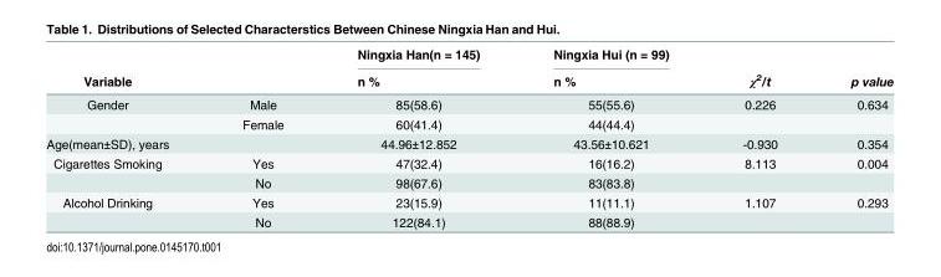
<table><thead><tr><td rowspan="2">Variable</td><td rowspan="2"></td><td rowspan="2">Ningxia Han(n = 145) n %</td><td rowspan="2">Ningxia Hui (n = 99) n %</td><td rowspan="2">χ<sup>2</sup>/t</td><td rowspan="2">p value</td></tr><tr></tr></thead><tbody><tr><td rowspan="2">Gender</td><td>Male</td><td>85(58.6)</td><td>55(55.6)</td><td>0.226</td><td>0.634</td></tr><tr><td>Female</td><td>60(41.4)</td><td>44(44.4)</td><td></td><td></td></tr><tr><td>Age(mean±SD), years</td><td></td><td>44.96±12.852</td><td>43.56±10.621</td><td>-0.930</td><td>0.354</td></tr><tr><td rowspan="2">Cigarettes Smoking</td><td>Yes</td><td>47(32.4)</td><td>16(16.2)</td><td>8.113</td><td>0.004</td></tr><tr><td>No</td><td>98(67.6)</td><td>83(83.8)</td><td></td><td></td></tr><tr><td rowspan="2">Alcohol Drinking</td><td>Yes</td><td>23(15.9)</td><td>11(11.1)</td><td>1.107</td><td>0.293</td></tr><tr><td>No</td><td>122(84.1)</td><td>88(88.9)</td><td></td><td></td></tr></tbody></table>